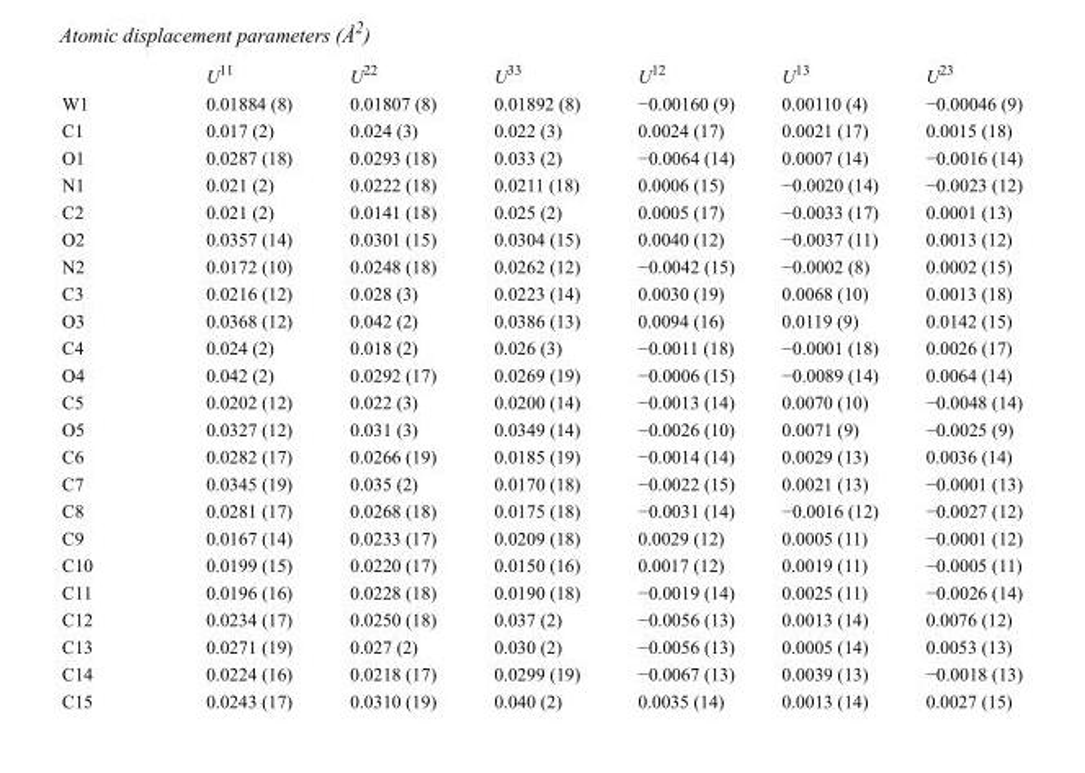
<table><thead><tr><td></td><td>U<sup>11</sup></td><td>U<sup>22</sup></td><td>U<sup>33</sup></td><td>U<sup>12</sup></td><td>U<sup>13</sup></td><td>U<sup>23</sup></td></tr></thead><tbody><tr><td>W1</td><td>0.01884 (8)</td><td>0.01807 (8)</td><td>0.01892 (8)</td><td>−0.00160 (9)</td><td>0.00110 (4)</td><td>−0.00046 (9)</td></tr><tr><td>C1</td><td>0.017 (2)</td><td>0.024 (3)</td><td>0.022 (3)</td><td>0.0024 (17)</td><td>0.0021 (17)</td><td>0.0015 (18)</td></tr><tr><td>O1</td><td>0.0287 (18)</td><td>0.0293 (18)</td><td>0.033 (2)</td><td>−0.0064 (14)</td><td>0.0007 (14)</td><td>−0.0016 (14)</td></tr><tr><td>N1</td><td>0.021 (2)</td><td>0.0222 (18)</td><td>0.0211 (18)</td><td>0.0006 (15)</td><td>−0.0020 (14)</td><td>−0.0023 (12)</td></tr><tr><td>C2</td><td>0.021 (2)</td><td>0.0141 (18)</td><td>0.025 (2)</td><td>0.0005 (17)</td><td>−0.0033 (17)</td><td>0.0001 (13)</td></tr><tr><td>O2</td><td>0.0357 (14)</td><td>0.0301 (15)</td><td>0.0304 (15)</td><td>0.0040 (12)</td><td>−0.0037 (11)</td><td>0.0013 (12)</td></tr><tr><td>N2</td><td>0.0172 (10)</td><td>0.0248 (18)</td><td>0.0262 (12)</td><td>−0.0042 (15)</td><td>−0.0002 (8)</td><td>0.0002 (15)</td></tr><tr><td>C3</td><td>0.0216 (12)</td><td>0.028 (3)</td><td>0.0223 (14)</td><td>0.0030 (19)</td><td>0.0068 (10)</td><td>0.0013 (18)</td></tr><tr><td>O3</td><td>0.0368 (12)</td><td>0.042 (2)</td><td>0.0386 (13)</td><td>0.0094 (16)</td><td>0.0119 (9)</td><td>0.0142 (15)</td></tr><tr><td>C4</td><td>0.024 (2)</td><td>0.018 (2)</td><td>0.026 (3)</td><td>−0.0011 (18)</td><td>−0.0001 (18)</td><td>0.0026 (17)</td></tr><tr><td>O4</td><td>0.042 (2)</td><td>0.0292 (17)</td><td>0.0269 (19)</td><td>−0.0006 (15)</td><td>−0.0089 (14)</td><td>0.0064 (14)</td></tr><tr><td>C5</td><td>0.0202 (12)</td><td>0.022 (3)</td><td>0.0200 (14)</td><td>−0.0013 (14)</td><td>0.0070 (10)</td><td>−0.0048 (14)</td></tr><tr><td>O5</td><td>0.0327 (12)</td><td>0.031 (3)</td><td>0.0349 (14)</td><td>−0.0026 (10)</td><td>0.0071 (9)</td><td>−0.0025 (9)</td></tr><tr><td>C6</td><td>0.0282 (17)</td><td>0.0266 (19)</td><td>0.0185 (19)</td><td>−0.0014 (14)</td><td>0.0029 (13)</td><td>0.0036 (14)</td></tr><tr><td>C7</td><td>0.0345 (19)</td><td>0.035 (2)</td><td>0.0170 (18)</td><td>−0.0022 (15)</td><td>0.0021 (13)</td><td>−0.0001 (13)</td></tr><tr><td>C8</td><td>0.0281 (17)</td><td>0.0268 (18)</td><td>0.0175 (18)</td><td>−0.0031 (14)</td><td>−0.0016 (12)</td><td>−0.0027 (12)</td></tr><tr><td>C9</td><td>0.0167 (14)</td><td>0.0233 (17)</td><td>0.0209 (18)</td><td>0.0029 (12)</td><td>0.0005 (11)</td><td>−0.0001 (12)</td></tr><tr><td>C10</td><td>0.0199 (15)</td><td>0.0220 (17)</td><td>0.0150 (16)</td><td>0.0017 (12)</td><td>0.0019 (11)</td><td>−0.0005 (11)</td></tr><tr><td>C11</td><td>0.0196 (16)</td><td>0.0228 (18)</td><td>0.0190 (18)</td><td>−0.0019 (14)</td><td>0.0025 (11)</td><td>−0.0026 (14)</td></tr><tr><td>C12</td><td>0.0234 (17)</td><td>0.0250 (18)</td><td>0.037 (2)</td><td>−0.0056 (13)</td><td>0.0013 (14)</td><td>0.0076 (12)</td></tr><tr><td>C13</td><td>0.0271 (19)</td><td>0.027 (2)</td><td>0.030 (2)</td><td>−0.0056 (13)</td><td>0.0005 (14)</td><td>0.0053 (13)</td></tr><tr><td>C14</td><td>0.0224 (16)</td><td>0.0218 (17)</td><td>0.0299 (19)</td><td>−0.0067 (13)</td><td>0.0039 (13)</td><td>−0.0018 (13)</td></tr><tr><td>C15</td><td>0.0243 (17)</td><td>0.0310 (19)</td><td>0.040 (2)</td><td>0.0035 (14)</td><td>0.0013 (14)</td><td>0.0027 (15)</td></tr></tbody></table>